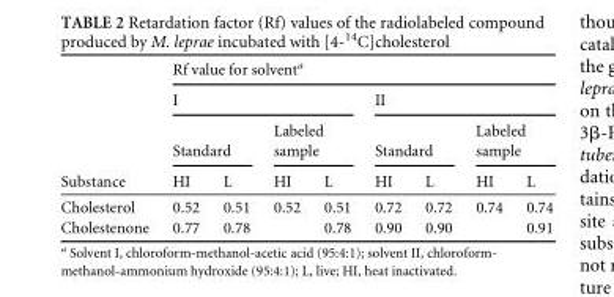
<table><thead><tr><td rowspan="4">Substance</td><td colspan="8">Rf value for solvent<sup>a</sup></td></tr><tr><td colspan="4">I</td><td colspan="4">II</td></tr><tr><td colspan="2">Standard</td><td colspan="2">Labeled sample</td><td colspan="2">Standard</td><td colspan="2">Labeled sample</td></tr><tr><td>HI</td><td>L</td><td>HI</td><td>L</td><td>HI</td><td>L</td><td>HI</td><td>L</td></tr></thead><tbody><tr><td>Cholesterol</td><td>0.52</td><td>0.51</td><td>0.52</td><td>0.51</td><td>0.72</td><td>0.72</td><td>0.74</td><td>0.74</td></tr><tr><td>Cholestenone</td><td>0.77</td><td>0.78</td><td></td><td>0.78</td><td>0.90</td><td>0.90</td><td></td><td>0.91</td></tr></tbody></table>